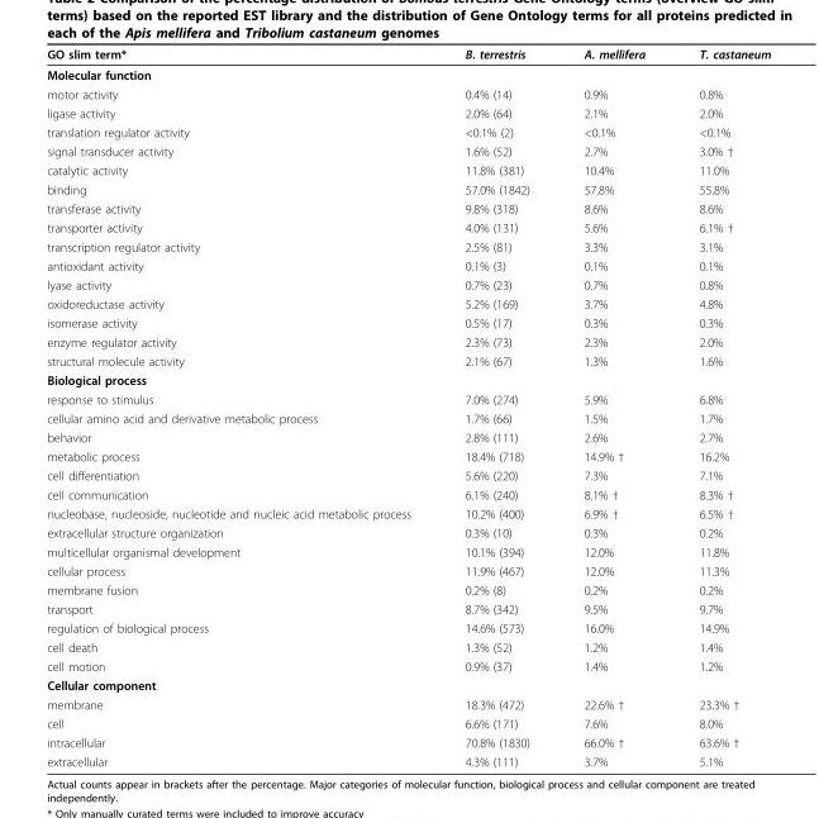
<table><thead><tr><td>GO slim term*</td><td>B. terrestris</td><td>A. mellifera</td><td>T. castaneum</td></tr></thead><tbody><tr><td colspan="4">Molecular function</td></tr><tr><td>motor activity</td><td>0.4% (14)</td><td>0.9%</td><td>0.8%</td></tr><tr><td>ligase activity</td><td>2.0% (64)</td><td>2.1%</td><td>2.0%</td></tr><tr><td>translation regulator activity</td><td>&lt;0.1% (2)</td><td>&lt;0.1%</td><td>&lt;0.1%</td></tr><tr><td>signal transducer activity</td><td>1.6% (52)</td><td>2.7%</td><td>3.0% †</td></tr><tr><td>catalytic activity</td><td>11.8% (381)</td><td>10.4%</td><td>11.0%</td></tr><tr><td>binding</td><td>57.0% (1842)</td><td>57.8%</td><td>55.8%</td></tr><tr><td>transferase activity</td><td>9.8% (318)</td><td>8.6%</td><td>8.6%</td></tr><tr><td>transporter activity</td><td>4.0% (131)</td><td>5.6%</td><td>6.1% †</td></tr><tr><td>transcription regulator activity</td><td>2.5% (81)</td><td>3.3%</td><td>3.1%</td></tr><tr><td>antioxidant activity</td><td>0.1% (3)</td><td>0.1%</td><td>0.1%</td></tr><tr><td>lyase activity</td><td>0.7% (23)</td><td>0.7%</td><td>0.8%</td></tr><tr><td>oxidoreductase activity</td><td>5.2% (169)</td><td>3.7%</td><td>4.8%</td></tr><tr><td>isomerase activity</td><td>0.5% (17)</td><td>0.3%</td><td>0.3%</td></tr><tr><td>enzyme regulator activity</td><td>2.3% (73)</td><td>2.3%</td><td>2.0%</td></tr><tr><td>structural molecule activity</td><td>2.1% (67)</td><td>1.3%</td><td>1.6%</td></tr><tr><td colspan="4">Biological process</td></tr><tr><td>response to stimulus</td><td>7.0% (274)</td><td>5.9%</td><td>6.8%</td></tr><tr><td>cellular amino acid and derivative metabolic process</td><td>1.7% (66)</td><td>1.5%</td><td>1.7%</td></tr><tr><td>behavior</td><td>2.8% (111)</td><td>2.6%</td><td>2.7%</td></tr><tr><td>metabolic process</td><td>18.4% (718)</td><td>14.9% †</td><td>16.2%</td></tr><tr><td>cell differentiation</td><td>5.6% (220)</td><td>7.3%</td><td>7.1%</td></tr><tr><td>cell communication</td><td>6.1% (240)</td><td>8.1% †</td><td>8.3% †</td></tr><tr><td>nucleobase, nucleoside, nucleotide and nucleic acid metabolic process</td><td>10.2% (400)</td><td>6.9% †</td><td>6.5% †</td></tr><tr><td>extracellular structure organization</td><td>0.3% (10)</td><td>0.3%</td><td>0.2%</td></tr><tr><td>multicellular organismal development</td><td>10.1% (394)</td><td>12.0%</td><td>11.8%</td></tr><tr><td>cellular process</td><td>11.9% (467)</td><td>12.0%</td><td>11.3%</td></tr><tr><td>membrane fusion</td><td>0.2% (8)</td><td>0.2%</td><td>0.2%</td></tr><tr><td>transport</td><td>8.7% (342)</td><td>9.5%</td><td>9.7%</td></tr><tr><td>regulation of biological process</td><td>14.6% (573)</td><td>16.0%</td><td>14.9%</td></tr><tr><td>cell death</td><td>1.3% (52)</td><td>1.2%</td><td>1.4%</td></tr><tr><td>cell motion</td><td>0.9% (37)</td><td>1.4%</td><td>1.2%</td></tr><tr><td colspan="4">Cellular component</td></tr><tr><td>membrane</td><td>18.3% (472)</td><td>22.6% †</td><td>23.3% †</td></tr><tr><td>cell</td><td>6.6% (171)</td><td>7.6%</td><td>8.0%</td></tr><tr><td>intracellular</td><td>70.8% (1830)</td><td>66.0% †</td><td>63.6% †</td></tr><tr><td>extracellular</td><td>4.3% (111)</td><td>3.7%</td><td>5.1%</td></tr></tbody></table>